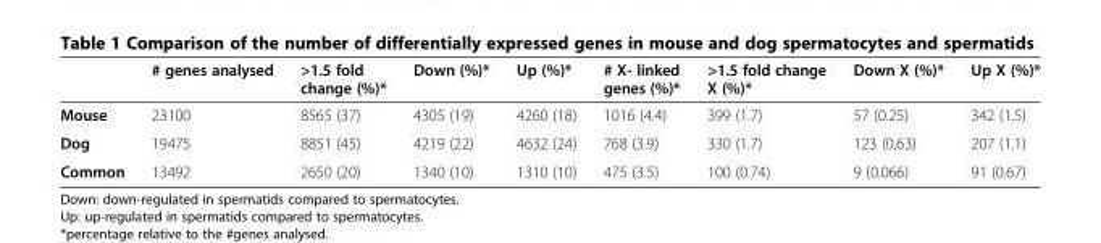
<table><thead><tr><td></td><td># genes analysed</td><td>&gt;1.5 fold change (%)*</td><td>Down (%)*</td><td>Up (%)*</td><td># X- linked genes (%)*</td><td>&gt;1.5 fold change X (%)*</td><td>Down X (%)*</td><td>Up X (%)*</td></tr></thead><tbody><tr><td>Mouse</td><td>23100</td><td>8565 (37)</td><td>4305 (19)</td><td>4260 (18)</td><td>1016 (4.4)</td><td>399 (1.7)</td><td>57 (0.25)</td><td>342 (1.5)</td></tr><tr><td>Dog</td><td>19475</td><td>8851 (45)</td><td>4219 (22)</td><td>4632 (24)</td><td>768 (3.9)</td><td>330 (1.7)</td><td>123 (0,63)</td><td>207 (1.1)</td></tr><tr><td>Common</td><td>13492</td><td>2650 (20)</td><td>1340 (10)</td><td>1310 (10)</td><td>475 (3.5)</td><td>100 (0.74)</td><td>9 (0.066)</td><td>91 (0.67)</td></tr></tbody></table>